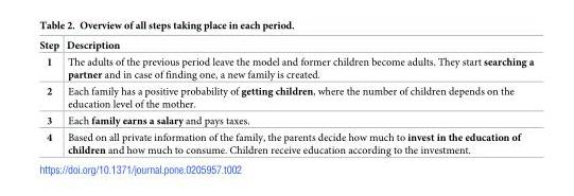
<table><thead><tr><td>Step</td><td>Description</td></tr></thead><tbody><tr><td>1</td><td>The adults of the previous period leave the model and former children become adults. They start searching a partner and in case of finding one, a new family is created.</td></tr><tr><td>2</td><td>Each family has a positive probability of getting children, where the number of children depends on the education level of the mother.</td></tr><tr><td>3</td><td>Each family earns a salary and pays taxes.</td></tr><tr><td>4</td><td>Based on all private information of the family, the parents decide how much to invest in the education of children and how much to consume. Children receive education according to the investment.</td></tr></tbody></table>